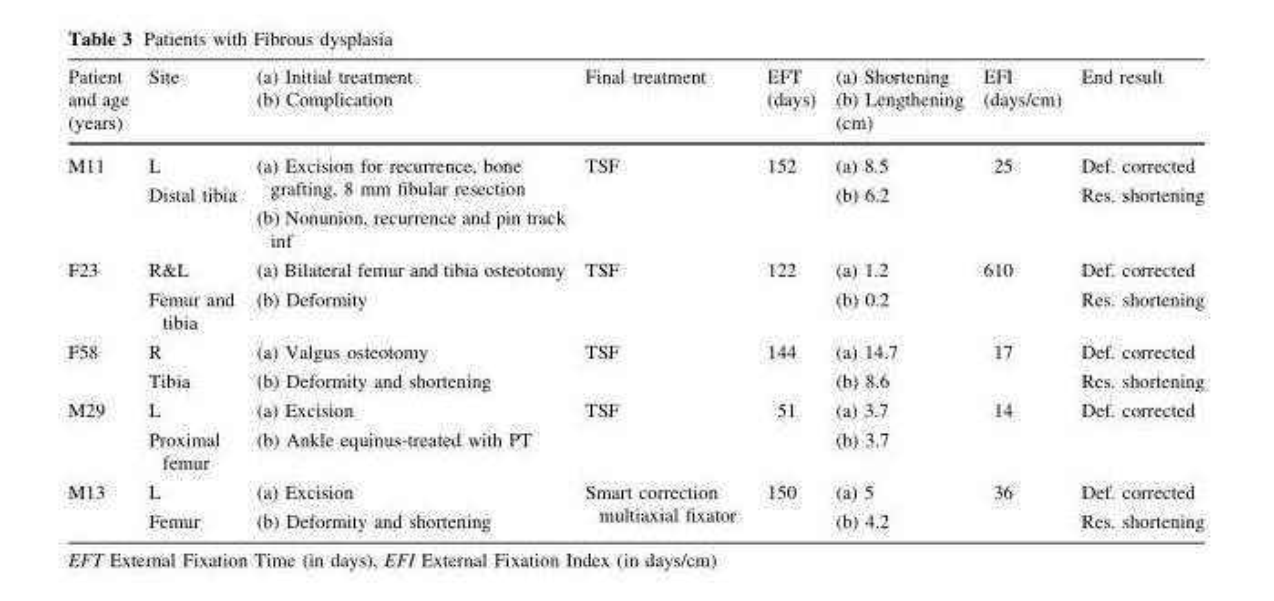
<table><thead><tr><td>Patient and age (years)</td><td>Site</td><td>(a) Initial treatment (b) Complication</td><td>Final treatment</td><td>EFT (days)</td><td>(a) Shortening (b) Lengthening (cm)</td><td>EFI (days/cm)</td><td>End result</td></tr></thead><tbody><tr><td>M11</td><td>L Distal tibia</td><td>(a) Excision for recurrence, bone grafting, 8 mm fibular resection (b) Nonunion, recurrence and pin track inf</td><td>TSF</td><td>152</td><td>(a) 8.5 (b) 6.2</td><td>25</td><td>Def. corrected Res. shortening</td></tr><tr><td>F23</td><td>R&amp;L Femur and tibia</td><td>(a) Bilateral femur and tibia osteotomy (b) Deformity</td><td>TSF</td><td>122</td><td>(a) 1.2 (b) 0.2</td><td>610</td><td>Def. corrected Res. shortening</td></tr><tr><td>F58</td><td>R Tibia</td><td>(a) Valgus osteotomy (b) Deformity and shortening</td><td>TSF</td><td>144</td><td>(a) 14.7 (b) 8.6</td><td>17</td><td>Def. corrected Res. shortening</td></tr><tr><td>M29</td><td>L Proximal femur</td><td>(a) Excision (b) Ankle equinus-treated with PT</td><td>TSF</td><td>51</td><td>(a) 3.7 (b) 3.7</td><td>14</td><td>Def. corrected</td></tr><tr><td>M13</td><td>L Femur</td><td>(a) Excision (b) Deformity and shortening</td><td>Smart correction multiaxial fixator</td><td>150</td><td>(a) 5 (b) 4.2</td><td>36</td><td>Def. corrected Res. shortening</td></tr></tbody></table>